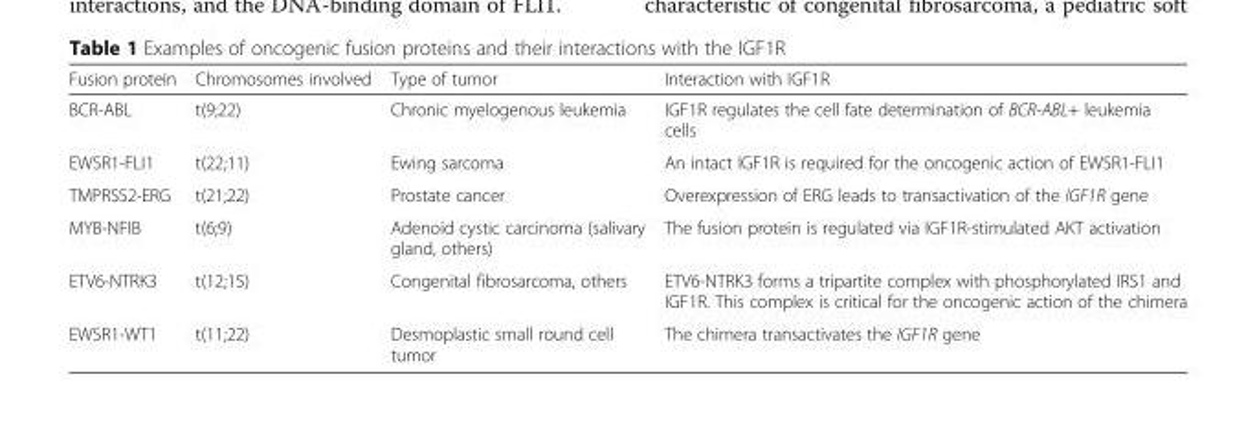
<table><thead><tr><td>Fusion protein</td><td>Chromosomes involved</td><td>Type of tumor</td><td>Interaction with IGF1R</td></tr></thead><tbody><tr><td>BCR-ABL</td><td>t(9;22)</td><td>Chronic myelogenous leukemia</td><td>IGF1R regulates the cell fate determination of BCR-ABL+ leukemia cells</td></tr><tr><td>EWSR1-FLI1</td><td>t(22;11)</td><td>Ewing sarcoma</td><td>An intact IGF1R is required for the oncogenic action of EWSR1-FLI1</td></tr><tr><td>TMPRSS2-ERG</td><td>t(21;22)</td><td>Prostate cancer</td><td>Overexpression of ERG leads to transactivation of the IGF1R gene</td></tr><tr><td>MYB-NFIB</td><td>t(6;9)</td><td>Adenoid cystic carcinoma (salivary gland, others)</td><td>The fusion protein is regulated via IGF1R-stimulated AKT activation</td></tr><tr><td>ETV6-NTRK3</td><td>t(12;15)</td><td>Congenital fibrosarcoma, others</td><td>ETV6-NTRK3 forms a tripartite complex with phosphorylated IRS1 and IGF1R. This complex is critical for the oncogenic action of the chimera</td></tr><tr><td>EWSR1-WT1</td><td>t(11;22)</td><td>Desmoplastic small round cell tumor</td><td>The chimera transactivates the IGF1R gene</td></tr></tbody></table>